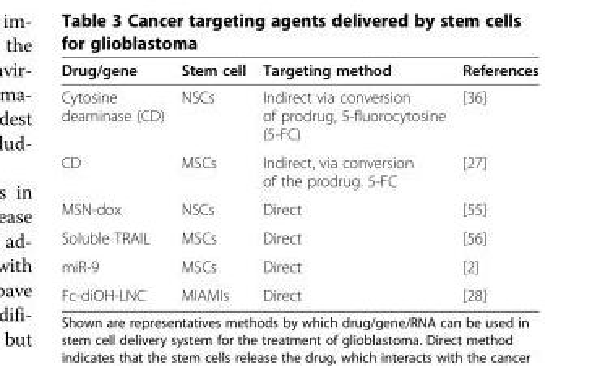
<table><thead><tr><td>Drug/gene</td><td>Stem cell</td><td>Targeting method</td><td>References</td></tr></thead><tbody><tr><td>Cytosine deaminase (CD)</td><td>NSCs</td><td>Indirect via conversion of prodrug, 5-fluorocytosine (5-FC)</td><td>[36]</td></tr><tr><td>CD</td><td>MSCs</td><td>Indirect, via conversion of the prodrug. 5-FC</td><td>[27]</td></tr><tr><td>MSN-dox</td><td>NSCs</td><td>Direct</td><td>[55]</td></tr><tr><td>Soluble TRAIL</td><td>MSCs</td><td>Direct</td><td>[56]</td></tr><tr><td>miR-9</td><td>MSCs</td><td>Direct</td><td>[2]</td></tr><tr><td>Fc-diOH-LNC</td><td>MIAMIs</td><td>Direct</td><td>[28]</td></tr></tbody></table>